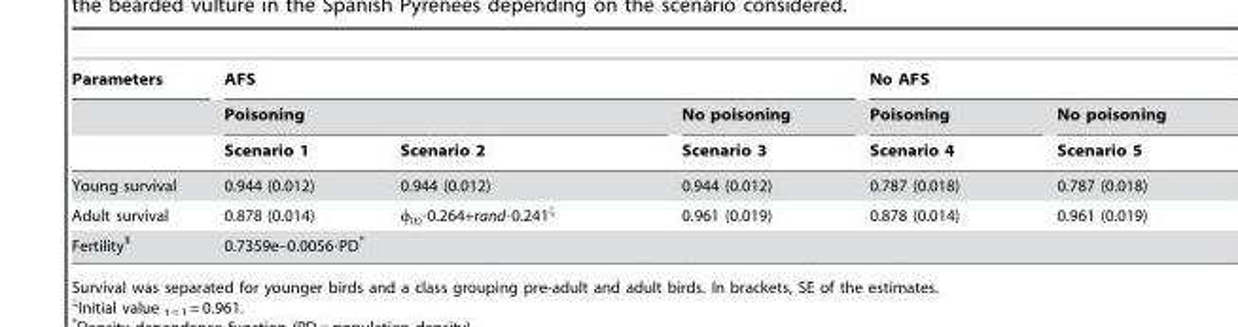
<table><thead><tr><td rowspan="3">Parameters</td><td colspan="3">AFS</td><td colspan="2">No AFS</td></tr><tr><td colspan="2">Poisoning</td><td rowspan="2">No poisoning Scenario 3</td><td rowspan="2">Poisoning Scenario 4</td><td rowspan="2">No poisoning Scenario 5</td></tr><tr><td>Scenario 1</td><td>Scenario 2</td></tr></thead><tbody><tr><td>Young survival</td><td>0.944 (0.012)</td><td>0.944 (0.012)</td><td>0.944 (0.012)</td><td>0.787 (0.018)</td><td>0.787 (0.018)</td></tr><tr><td>Adult survival</td><td>0.878 (0.014)</td><td>φ<sub>(t)</sub>·0.264+rand·0.241ξ</td><td>0.961 (0.019)</td><td>0.878 (0.014)</td><td>0.961 (0.019)</td></tr><tr><td>Fertility§</td><td colspan="5">0.7359e–0.0056·PD*</td></tr></tbody></table>